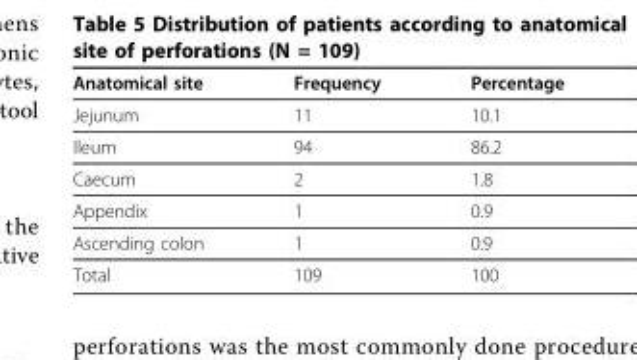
<table><thead><tr><td>Anatomical site</td><td>Frequency</td><td>Percentage</td></tr></thead><tbody><tr><td>Jejunum</td><td>11</td><td>10.1</td></tr><tr><td>Ileum</td><td>94</td><td>86.2</td></tr><tr><td>Caecum</td><td>2</td><td>1.8</td></tr><tr><td>Appendix</td><td>1</td><td>0.9</td></tr><tr><td>Ascending colon</td><td>1</td><td>0.9</td></tr><tr><td>Total</td><td>109</td><td>100</td></tr></tbody></table>